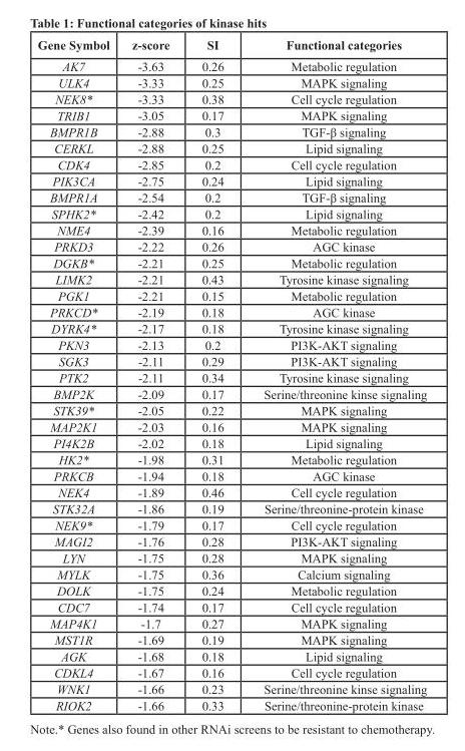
<table><thead><tr><td>Gene Symbol</td><td>z-score</td><td>SI</td><td>Functional categories</td></tr></thead><tbody><tr><td>AK7</td><td>-3.63</td><td>0.26</td><td>Metabolic regulation</td></tr><tr><td>ULK4</td><td>-3.33</td><td>0.25</td><td>MAPK signaling</td></tr><tr><td>NEK8*</td><td>-3.33</td><td>0.38</td><td>Cell cycle regulation</td></tr><tr><td>TRIB1</td><td>-3.05</td><td>0.17</td><td>MAPK signaling</td></tr><tr><td>BMPR1B</td><td>-2.88</td><td>0.3</td><td>TGF-β signaling</td></tr><tr><td>CERKL</td><td>-2.88</td><td>0.25</td><td>Lipid signaling</td></tr><tr><td>CDK4</td><td>-2.85</td><td>0.2</td><td>Cell cycle regulation</td></tr><tr><td>PIK3CA</td><td>-2.75</td><td>0.24</td><td>Lipid signaling</td></tr><tr><td>BMPR1A</td><td>-2.54</td><td>0.2</td><td>TGF-β signaling</td></tr><tr><td>SPHK2*</td><td>-2.42</td><td>0.2</td><td>Lipid signaling</td></tr><tr><td>NME4</td><td>-2.39</td><td>0.16</td><td>Metabolic regulation</td></tr><tr><td>PRKD3</td><td>-2.22</td><td>0.26</td><td>AGC kinase</td></tr><tr><td>DGKB*</td><td>-2.21</td><td>0.25</td><td>Metabolic regulation</td></tr><tr><td>LIMK2</td><td>-2.21</td><td>0.43</td><td>Tyrosine kinase signaling</td></tr><tr><td>PGK1</td><td>-2.21</td><td>0.15</td><td>Metabolic regulation</td></tr><tr><td>PRKCD*</td><td>-2.19</td><td>0.18</td><td>AGC kinase</td></tr><tr><td>DYRK4*</td><td>-2.17</td><td>0.18</td><td>Tyrosine kinase signaling</td></tr><tr><td>PKN3</td><td>-2.13</td><td>0.2</td><td>PI3K-AKT signaling</td></tr><tr><td>SGK3</td><td>-2.11</td><td>0.29</td><td>PI3K-AKT signaling</td></tr><tr><td>PTK2</td><td>-2.11</td><td>0.34</td><td>Tyrosine kinase signaling</td></tr><tr><td>BMP2K</td><td>-2.09</td><td>0.17</td><td>Serine/threonine kinse signaling</td></tr><tr><td>STK39*</td><td>-2.05</td><td>0.22</td><td>MAPK signaling</td></tr><tr><td>MAP2K1</td><td>-2.03</td><td>0.16</td><td>MAPK signaling</td></tr><tr><td>PI4K2B</td><td>-2.02</td><td>0.18</td><td>Lipid signaling</td></tr><tr><td>HK2*</td><td>-1.98</td><td>0.31</td><td>Metabolic regulation</td></tr><tr><td>PRKCB</td><td>-1.94</td><td>0.18</td><td>AGC kinase</td></tr><tr><td>NEK4</td><td>-1.89</td><td>0.46</td><td>Cell cycle regulation</td></tr><tr><td>STK32A</td><td>-1.86</td><td>0.19</td><td>Serine/threonine-protein kinase</td></tr><tr><td>NEK9*</td><td>-1.79</td><td>0.17</td><td>Cell cycle regulation</td></tr><tr><td>MAGI2</td><td>-1.76</td><td>0.28</td><td>PI3K-AKT signaling</td></tr><tr><td>LYN</td><td>-1.75</td><td>0.28</td><td>MAPK signaling</td></tr><tr><td>MYLK</td><td>-1.75</td><td>0.36</td><td>Calcium signaling</td></tr><tr><td>DOLK</td><td>-1.75</td><td>0.24</td><td>Metabolic regulation</td></tr><tr><td>CDC7</td><td>-1.74</td><td>0.17</td><td>Cell cycle regulation</td></tr><tr><td>MAP4K1</td><td>-1.7</td><td>0.27</td><td>MAPK signaling</td></tr><tr><td>MST1R</td><td>-1.69</td><td>0.19</td><td>MAPK signaling</td></tr><tr><td>AGK</td><td>-1.68</td><td>0.18</td><td>Lipid signaling</td></tr><tr><td>CDKL4</td><td>-1.67</td><td>0.16</td><td>Cell cycle regulation</td></tr><tr><td>WNK1</td><td>-1.66</td><td>0.23</td><td>Serine/threonine kinse signaling</td></tr><tr><td>RIOK2</td><td>-1.66</td><td>0.33</td><td>Serine/threonine-protein kinase</td></tr></tbody></table>